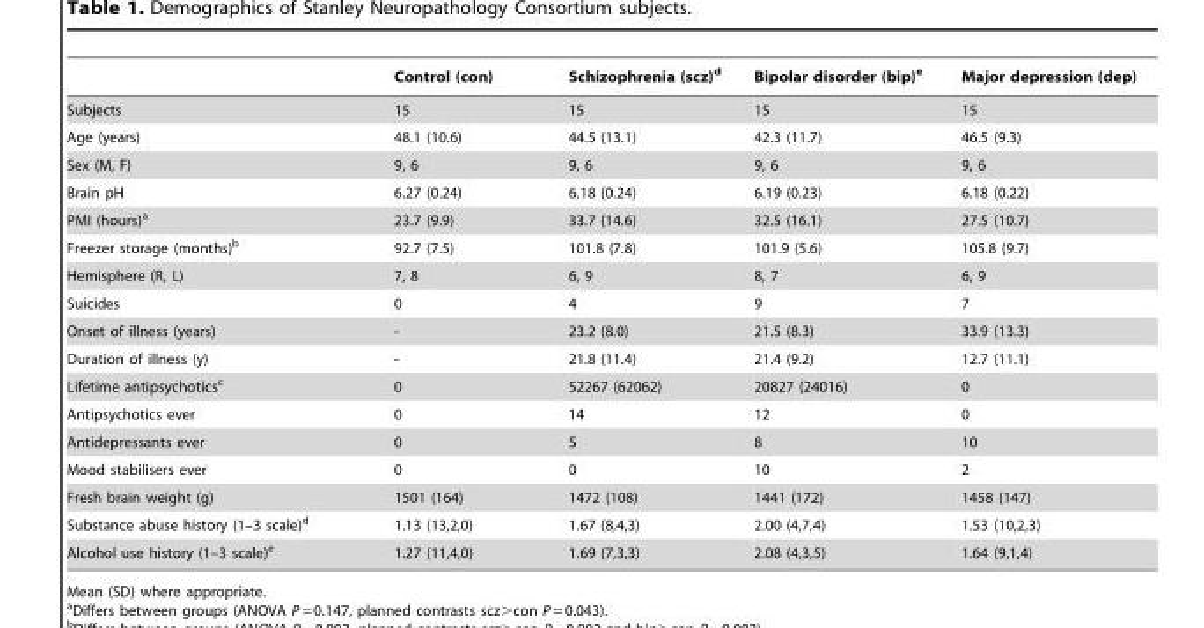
<table><thead><tr><td></td><td>Control (con)</td><td>Schizophrenia (scz)<sup>d</sup></td><td>Bipolar disorder (bip)<sup>e</sup></td><td>Major depression (dep)</td></tr></thead><tbody><tr><td>Subjects</td><td>15</td><td>15</td><td>15</td><td>15</td></tr><tr><td>Age (years)</td><td>48.1 (10.6)</td><td>44.5 (13.1)</td><td>42.3 (11.7)</td><td>46.5 (9.3)</td></tr><tr><td>Sex (M, F)</td><td>9, 6</td><td>9, 6</td><td>9, 6</td><td>9, 6</td></tr><tr><td>Brain pH</td><td>6.27 (0.24)</td><td>6.18 (0.24)</td><td>6.19 (0.23)</td><td>6.18 (0.22)</td></tr><tr><td>PMI (hours)<sup>a</sup></td><td>23.7 (9.9)</td><td>33.7 (14.6)</td><td>32.5 (16.1)</td><td>27.5 (10.7)</td></tr><tr><td>Freezer storage (months)<sup>b</sup></td><td>92.7 (7.5)</td><td>101.8 (7.8)</td><td>101.9 (5.6)</td><td>105.8 (9.7)</td></tr><tr><td>Hemisphere (R, L)</td><td>7, 8</td><td>6, 9</td><td>8, 7</td><td>6, 9</td></tr><tr><td>Suicides</td><td>0</td><td>4</td><td>9</td><td>7</td></tr><tr><td>Onset of illness (years)</td><td>-</td><td>23.2 (8.0)</td><td>21.5 (8.3)</td><td>33.9 (13.3)</td></tr><tr><td>Duration of illness (y)</td><td>-</td><td>21.8 (11.4)</td><td>21.4 (9.2)</td><td>12.7 (11.1)</td></tr><tr><td>Lifetime antipsychotics<sup>c</sup></td><td>0</td><td>52267 (62062)</td><td>20827 (24016)</td><td>0</td></tr><tr><td>Antipsychotics ever</td><td>0</td><td>14</td><td>12</td><td>0</td></tr><tr><td>Antidepressants ever</td><td>0</td><td>5</td><td>8</td><td>10</td></tr><tr><td>Mood stabilisers ever</td><td>0</td><td>0</td><td>10</td><td>2</td></tr><tr><td>Fresh brain weight (g)</td><td>1501 (164)</td><td>1472 (108)</td><td>1441 (172)</td><td>1458 (147)</td></tr><tr><td>Substance abuse history (1–3 scale)<sup>d</sup></td><td>1.13 (13,2,0)</td><td>1.67 (8,4,3)</td><td>2.00 (4,7,4)</td><td>1.53 (10,2,3)</td></tr><tr><td>Alcohol use history (1–3 scale)<sup>e</sup></td><td>1.27 (11,4,0)</td><td>1.69 (7,3,3)</td><td>2.08 (4,3,5)</td><td>1.64 (9,1,4)</td></tr></tbody></table>